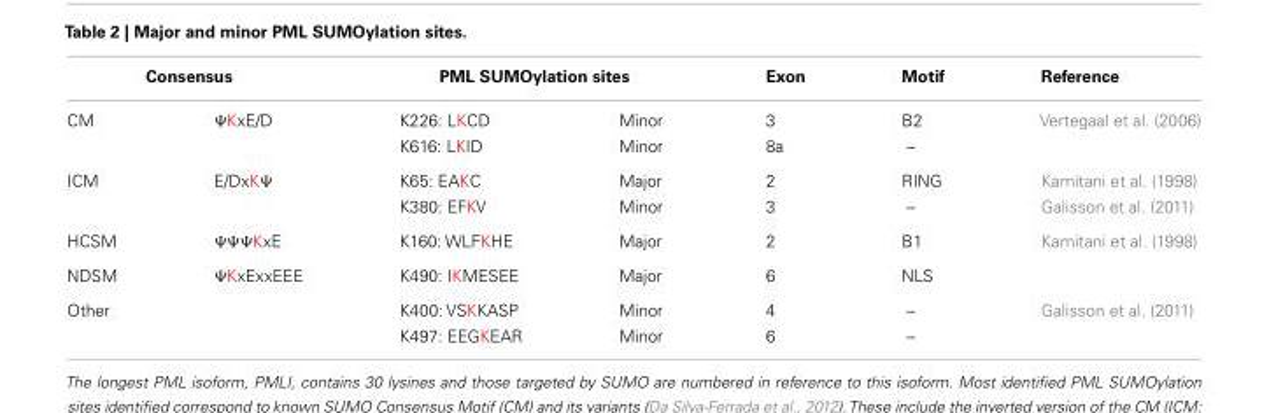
<table><thead><tr><td colspan="2">Consensus</td><td colspan="2">PML SUMOylation sites</td><td rowspan="2">Exon 3</td><td rowspan="2">Motif B2</td><td rowspan="2">Reference Vertegaal et al. (2006)</td></tr><tr><td>CM</td><td>ΨKxE/D</td><td>K226: LKCD</td><td>Minor</td></tr></thead><tbody><tr><td></td><td></td><td>K616: LKID</td><td>Minor</td><td>8a</td><td>–</td><td></td></tr><tr><td rowspan="2">ICM</td><td>E/DxKΨ</td><td>K65: EAKC</td><td>Major</td><td>2</td><td>RING</td><td>Kamitani et al. (1998)</td></tr><tr><td></td><td>K380: EFKV</td><td>Minor</td><td>3</td><td>–</td><td>Galisson et al. (2011)</td></tr><tr><td>HCSM</td><td>ΨΨΨKxE</td><td>K160: WLFKHE</td><td>Major</td><td>2</td><td>B1</td><td>Kamitani et al. (1998)</td></tr><tr><td>NDSM</td><td>ΨKxExxEEE</td><td>K490: IKMESEE</td><td>Major</td><td>6</td><td>NLS</td><td></td></tr><tr><td rowspan="2">Other</td><td></td><td>K400: VSKKASP</td><td>Minor</td><td>4</td><td>–</td><td>Galisson et al. (2011)</td></tr><tr><td></td><td>K497: EEGKEAR</td><td>Minor</td><td>6</td><td>–</td><td></td></tr></tbody></table>